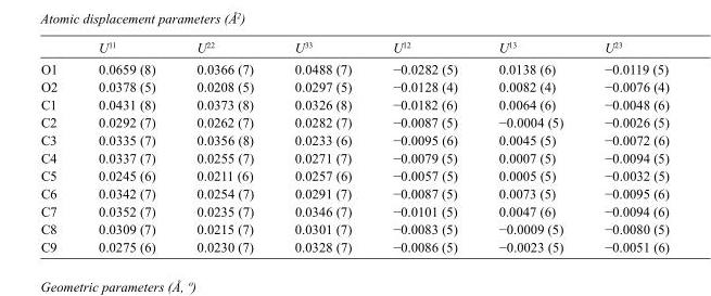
<table><thead><tr><td></td><td>U<sup>11</sup></td><td>U<sup>22</sup></td><td>U<sup>33</sup></td><td>U<sup>12</sup></td><td>U<sup>13</sup></td><td>U<sup>23</sup></td></tr></thead><tbody><tr><td>O1</td><td>0.0659 (8)</td><td>0.0366 (7)</td><td>0.0488 (7)</td><td>−0.0282 (5)</td><td>0.0138 (6)</td><td>−0.0119 (5)</td></tr><tr><td>O2</td><td>0.0378 (5)</td><td>0.0208 (5)</td><td>0.0297 (5)</td><td>−0.0128 (4)</td><td>0.0082 (4)</td><td>−0.0076 (4)</td></tr><tr><td>C1</td><td>0.0431 (8)</td><td>0.0373 (8)</td><td>0.0326 (8)</td><td>−0.0182 (6)</td><td>0.0064 (6)</td><td>−0.0048 (6)</td></tr><tr><td>C2</td><td>0.0292 (7)</td><td>0.0262 (7)</td><td>0.0282 (7)</td><td>−0.0087 (5)</td><td>−0.0004 (5)</td><td>−0.0026 (5)</td></tr><tr><td>C3</td><td>0.0335 (7)</td><td>0.0356 (8)</td><td>0.0233 (6)</td><td>−0.0095 (6)</td><td>0.0045 (5)</td><td>−0.0072 (6)</td></tr><tr><td>C4</td><td>0.0337 (7)</td><td>0.0255 (7)</td><td>0.0271 (7)</td><td>−0.0079 (5)</td><td>0.0007 (5)</td><td>−0.0094 (5)</td></tr><tr><td>C5</td><td>0.0245 (6)</td><td>0.0211 (6)</td><td>0.0257 (6)</td><td>−0.0057 (5)</td><td>0.0005 (5)</td><td>−0.0032 (5)</td></tr><tr><td>C6</td><td>0.0342 (7)</td><td>0.0254 (7)</td><td>0.0291 (7)</td><td>−0.0087 (5)</td><td>0.0073 (5)</td><td>−0.0095 (6)</td></tr><tr><td>C7</td><td>0.0352 (7)</td><td>0.0235 (7)</td><td>0.0346 (7)</td><td>−0.0101 (5)</td><td>0.0047 (6)</td><td>−0.0094 (6)</td></tr><tr><td>C8</td><td>0.0309 (7)</td><td>0.0215 (7)</td><td>0.0301 (7)</td><td>−0.0083 (5)</td><td>−0.0009 (5)</td><td>−0.0080 (5)</td></tr><tr><td>C9</td><td>0.0275 (6)</td><td>0.0230 (7)</td><td>0.0328 (7)</td><td>−0.0086 (5)</td><td>−0.0023 (5)</td><td>−0.0051 (6)</td></tr></tbody></table>